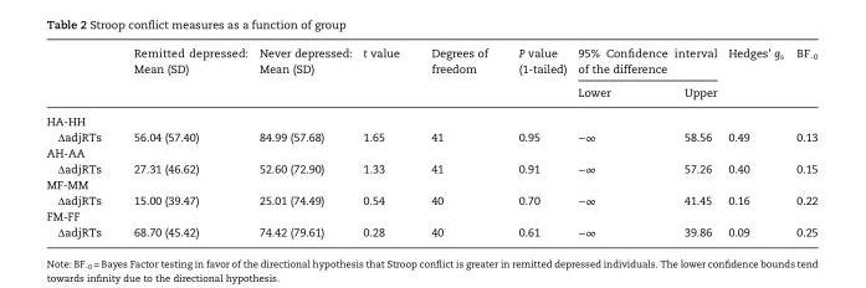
<table><thead><tr><td rowspan="2"></td><td rowspan="2">Remitted depressed: Mean (SD)</td><td rowspan="2">Never depressed: Mean (SD)</td><td rowspan="2">t value</td><td rowspan="2">Degrees of freedom</td><td rowspan="2">P value (1-tailed)</td><td colspan="2">95% Confidence interval of the difference</td><td rowspan="2">Hedges’ g<sub>s</sub></td><td rowspan="2">BF<sub>-0</sub></td></tr><tr><td>Lower</td><td>Upper</td></tr></thead><tbody><tr><td colspan="10">HA-HH</td></tr><tr><td>ΔadjRTs</td><td>56.04 (57.40)</td><td>84.99 (57.68)</td><td>1.65</td><td>41</td><td>0.95</td><td>−∞</td><td>58.56</td><td>0.49</td><td>0.13</td></tr><tr><td colspan="10">AH-AA</td></tr><tr><td>ΔadjRTs</td><td>27.31 (46.62)</td><td>52.60 (72.90)</td><td>1.33</td><td>41</td><td>0.91</td><td>−∞</td><td>57.26</td><td>0.40</td><td>0.15</td></tr><tr><td colspan="10">MF-MM</td></tr><tr><td>ΔadjRTs</td><td>15.00 (39.47)</td><td>25.01 (74.49)</td><td>0.54</td><td>40</td><td>0.70</td><td>−∞</td><td>41.45</td><td>0.16</td><td>0.22</td></tr><tr><td colspan="10">FM-FF</td></tr><tr><td>ΔadjRTs</td><td>68.70 (45.42)</td><td>74.42 (79.61)</td><td>0.28</td><td>40</td><td>0.61</td><td>−∞</td><td>39.86</td><td>0.09</td><td>0.25</td></tr></tbody></table>